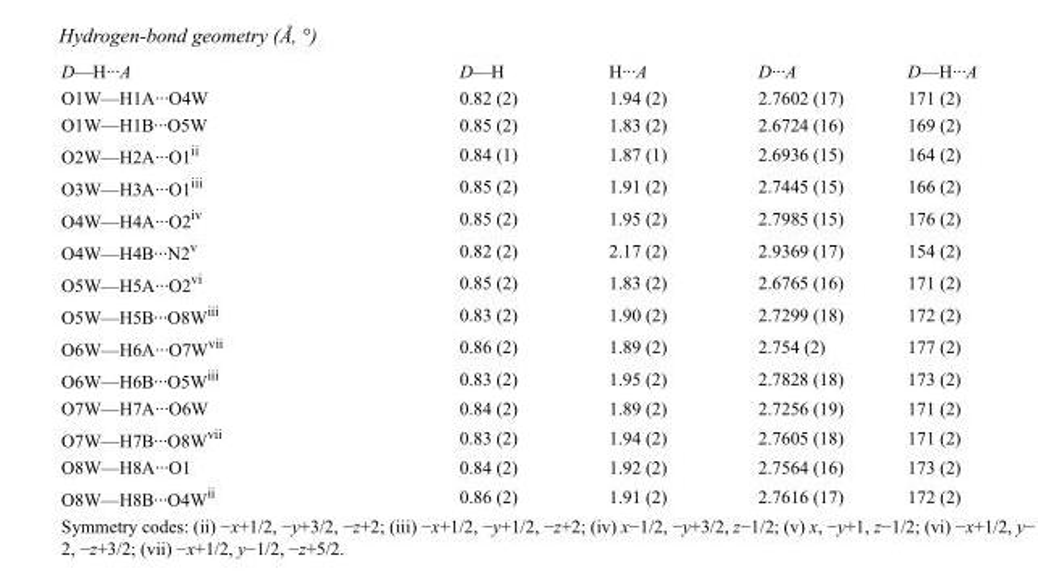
<table><tbody><tr><td>D—H···A</td><td>D—H</td><td>H···A</td><td>D···A</td><td>D—H···A</td></tr><tr><td>O1W—H1A···O4W</td><td>0.82 (2)</td><td>1.94 (2)</td><td>2.7602 (17)</td><td>171 (2)</td></tr><tr><td>O1W—H1B···O5W</td><td>0.85 (2)</td><td>1.83 (2)</td><td>2.6724 (16)</td><td>169 (2)</td></tr><tr><td>O2W—H2A···O1<sup>ii</sup></td><td>0.84 (1)</td><td>1.87 (1)</td><td>2.6936 (15)</td><td>164 (2)</td></tr><tr><td>O3W—H3A···O1<sup>iii</sup></td><td>0.85 (2)</td><td>1.91 (2)</td><td>2.7445 (15)</td><td>166 (2)</td></tr><tr><td>O4W—H4A···O2<sup>iv</sup></td><td>0.85 (2)</td><td>1.95 (2)</td><td>2.7985 (15)</td><td>176 (2)</td></tr><tr><td>O4W—H4B···N2<sup>v</sup></td><td>0.82 (2)</td><td>2.17 (2)</td><td>2.9369 (17)</td><td>154 (2)</td></tr><tr><td>O5W—H5A···O2<sup>vi</sup></td><td>0.85 (2)</td><td>1.83 (2)</td><td>2.6765 (16)</td><td>171 (2)</td></tr><tr><td>O5W—H5B···O8W<sup>iii</sup></td><td>0.83 (2)</td><td>1.90 (2)</td><td>2.7299 (18)</td><td>172 (2)</td></tr><tr><td>O6W—H6A···O7W<sup>vii</sup></td><td>0.86 (2)</td><td>1.89 (2)</td><td>2.754 (2)</td><td>177 (2)</td></tr><tr><td>O6W—H6B···O5W<sup>iii</sup></td><td>0.83 (2)</td><td>1.95 (2)</td><td>2.7828 (18)</td><td>173 (2)</td></tr><tr><td>O7W—H7A···O6W</td><td>0.84 (2)</td><td>1.89 (2)</td><td>2.7256 (19)</td><td>171 (2)</td></tr><tr><td>O7W—H7B···O8W<sup>vii</sup></td><td>0.83 (2)</td><td>1.94 (2)</td><td>2.7605 (18)</td><td>171 (2)</td></tr><tr><td>O8W—H8A···O1</td><td>0.84 (2)</td><td>1.92 (2)</td><td>2.7564 (16)</td><td>173 (2)</td></tr><tr><td>O8W—H8B···O4W<sup>ii</sup></td><td>0.86 (2)</td><td>1.91 (2)</td><td>2.7616 (17)</td><td>172 (2)</td></tr></tbody></table>